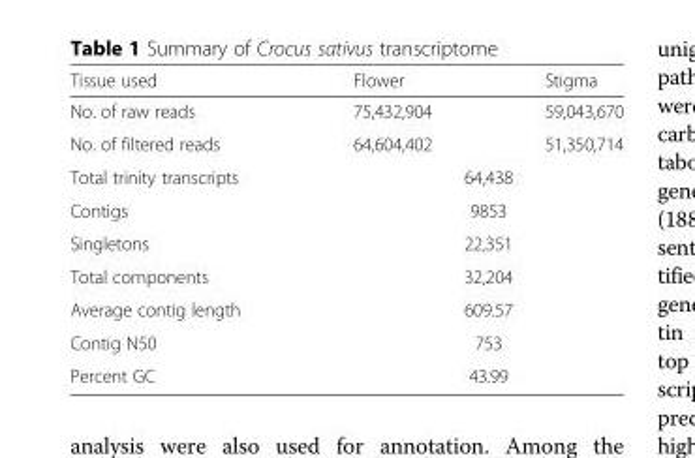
<table><thead><tr><td>Tissue used</td><td>Flower</td><td>Stigma</td></tr></thead><tbody><tr><td>No. of raw reads</td><td>75,432,904</td><td>59,043,670</td></tr><tr><td>No. of filtered reads</td><td>64,604,402</td><td>51,350,714</td></tr><tr><td>Total trinity transcripts</td><td colspan="2">64,438</td></tr><tr><td>Contigs</td><td colspan="2">9853</td></tr><tr><td>Singletons</td><td colspan="2">22,351</td></tr><tr><td>Total components</td><td colspan="2">32,204</td></tr><tr><td>Average contig length</td><td colspan="2">609.57</td></tr><tr><td>Contig N50</td><td colspan="2">753</td></tr><tr><td>Percent GC</td><td colspan="2">43.99</td></tr></tbody></table>